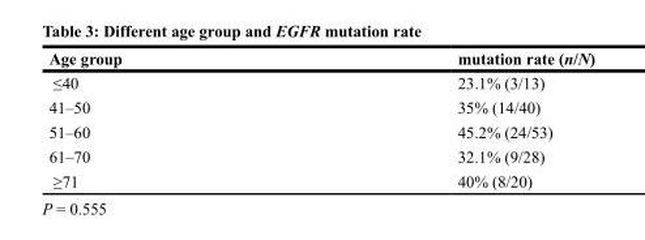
<table><thead><tr><td>Age group</td><td>mutation rate (n/N)</td></tr></thead><tbody><tr><td>≤40</td><td>23.1% (3/13)</td></tr><tr><td>41–50</td><td>35% (14/40)</td></tr><tr><td>51–60</td><td>45.2% (24/53)</td></tr><tr><td>61–70</td><td>32.1% (9/28)</td></tr><tr><td>≥71</td><td>40% (8/20)</td></tr></tbody></table>